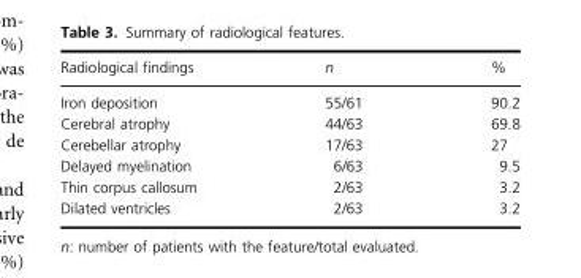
<table><thead><tr><td>Radiological findings</td><td>n</td><td>%</td></tr></thead><tbody><tr><td>Iron deposition</td><td>55/61</td><td>90.2</td></tr><tr><td>Cerebral atrophy</td><td>44/63</td><td>69.8</td></tr><tr><td>Cerebellar atrophy</td><td>17/63</td><td>27</td></tr><tr><td>Delayed myelination</td><td>6/63</td><td>9.5</td></tr><tr><td>Thin corpus callosum</td><td>2/63</td><td>3.2</td></tr><tr><td>Dilated ventricles</td><td>2/63</td><td>3.2</td></tr></tbody></table>